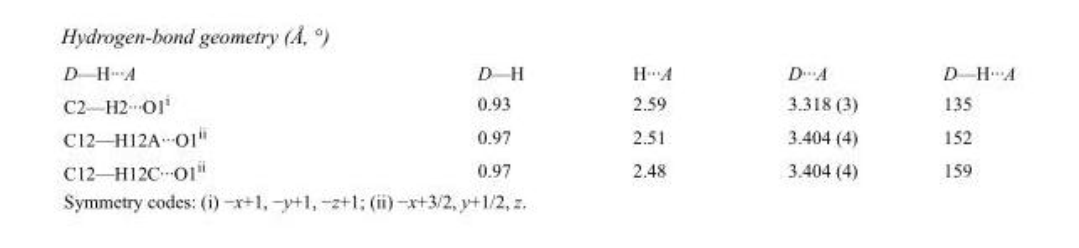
<table><tbody><tr><td>D—H···A</td><td>D—H</td><td>H···A</td><td>D···A</td><td>D—H···A</td></tr><tr><td>C2—H2···O1<sup>i</sup></td><td>0.93</td><td>2.59</td><td>3.318 (3)</td><td>135</td></tr><tr><td>C12—H12A···O1<sup>ii</sup></td><td>0.97</td><td>2.51</td><td>3.404 (4)</td><td>152</td></tr><tr><td>C12—H12C···O1<sup>ii</sup></td><td>0.97</td><td>2.48</td><td>3.404 (4)</td><td>159</td></tr></tbody></table>